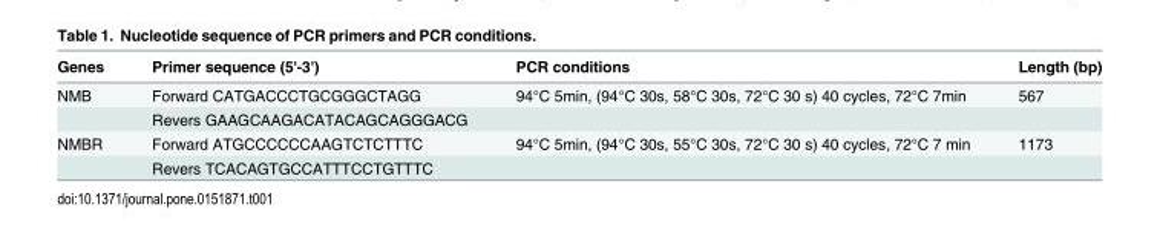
<table><thead><tr><td>Genes</td><td>Primer sequence (5&#x27;-3&#x27;)</td><td>PCR conditions</td><td>Length (bp)</td></tr></thead><tbody><tr><td rowspan="2">NMB</td><td>Forward CATGACCCTGCGGGCTAGG</td><td>94°C 5min, (94°C 30s, 58°C 30s, 72°C 30 s) 40 cycles, 72°C 7min</td><td>567</td></tr><tr><td>Revers GAAGCAAGACATACAGCAGGGACG</td><td></td><td></td></tr><tr><td rowspan="2">NMBR</td><td>Forward ATGCCCCCCAAGTCTCTTTC</td><td>94°C 5min, (94°C 30s, 55°C 30s, 72°C 30 s) 40 cycles, 72°C 7 min</td><td>1173</td></tr><tr><td>Revers TCACAGTGCCATTTCCTGTTTC</td><td></td><td></td></tr></tbody></table>